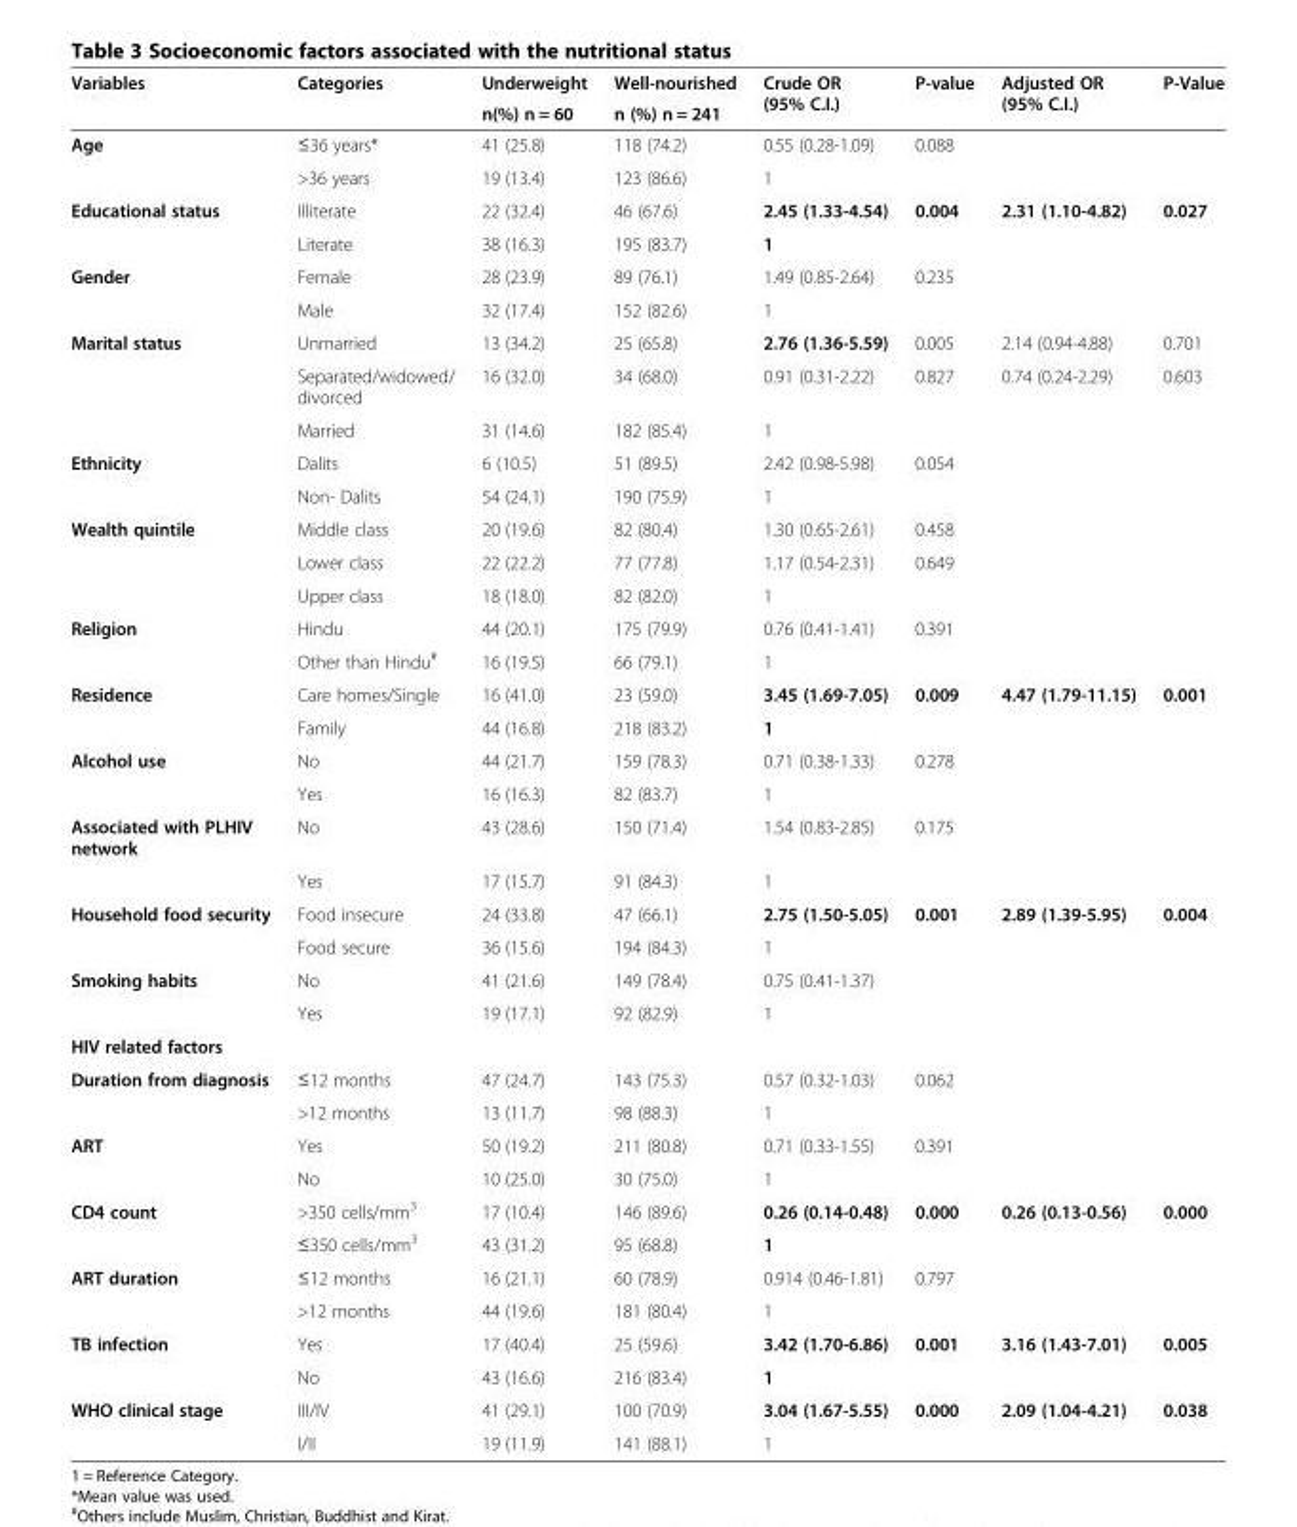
<table><thead><tr><td rowspan="2">Variables</td><td rowspan="2">Categories</td><td rowspan="2">Underweight n(%) n = 60</td><td rowspan="2">Well-nourished n (%) n = 241</td><td rowspan="2">Crude OR (95% C.I.)</td><td rowspan="2">P-value</td><td rowspan="2">Adjusted OR (95% C.I.)</td><td rowspan="2">P-Value</td></tr><tr></tr></thead><tbody><tr><td rowspan="2">Age</td><td>≤36 years*</td><td>41 (25.8)</td><td>118 (74.2)</td><td>0.55 (0.28-1.09)</td><td rowspan="2">0.088</td><td></td><td></td></tr><tr><td>&gt;36 years</td><td>19 (13.4)</td><td>123 (86.6)</td><td>1</td><td></td><td></td></tr><tr><td rowspan="2">Educational status</td><td>Illiterate</td><td>22 (32.4)</td><td>46 (67.6)</td><td>2.45 (1.33-4.54)</td><td rowspan="2">0.004</td><td>2.31 (1.10-4.82)</td><td rowspan="2">0.027</td></tr><tr><td>Literate</td><td>38 (16.3)</td><td>195 (83.7)</td><td>1</td><td></td></tr><tr><td rowspan="2">Gender</td><td>Female</td><td>28 (23.9)</td><td>89 (76.1)</td><td>1.49 (0.85-2.64)</td><td rowspan="2">0.235</td><td></td><td></td></tr><tr><td>Male</td><td>32 (17.4)</td><td>152 (82.6)</td><td>1</td><td></td><td></td></tr><tr><td rowspan="3">Marital status</td><td>Unmarried</td><td>13 (34.2)</td><td>25 (65.8)</td><td>2.76 (1.36-5.59)</td><td>0.005</td><td>2.14 (0.94-4.88)</td><td>0.701</td></tr><tr><td>Separated/widowed/ divorced</td><td>16 (32.0)</td><td>34 (68.0)</td><td>0.91 (0.31-2.22)</td><td>0.827</td><td>0.74 (0.24-2.29)</td><td>0.603</td></tr><tr><td>Married</td><td>31 (14.6)</td><td>182 (85.4)</td><td>1</td><td></td><td></td><td></td></tr><tr><td rowspan="2">Ethnicity</td><td>Dalits</td><td>6 (10.5)</td><td>51 (89.5)</td><td>2.42 (0.98-5.98)</td><td rowspan="2">0.054</td><td></td><td></td></tr><tr><td>Non- Dalits</td><td>54 (24.1)</td><td>190 (75.9)</td><td>1</td><td></td><td></td></tr><tr><td rowspan="3">Wealth quintile</td><td>Middle class</td><td>20 (19.6)</td><td>82 (80.4)</td><td>1.30 (0.65-2.61)</td><td>0.458</td><td></td><td></td></tr><tr><td>Lower class</td><td>22 (22.2)</td><td>77 (77.8)</td><td>1.17 (0.54-2.31)</td><td>0.649</td><td></td><td></td></tr><tr><td>Upper class</td><td>18 (18.0)</td><td>82 (82.0)</td><td>1</td><td></td><td></td><td></td></tr><tr><td rowspan="2">Religion</td><td>Hindu</td><td>44 (20.1)</td><td>175 (79.9)</td><td>0.76 (0.41-1.41)</td><td rowspan="2">0.391</td><td></td><td></td></tr><tr><td>Other than Hindu<sup>#</sup></td><td>16 (19.5)</td><td>66 (79.1)</td><td>1</td><td></td><td></td></tr><tr><td rowspan="2">Residence</td><td>Care homes/Single</td><td>16 (41.0)</td><td>23 (59.0)</td><td>3.45 (1.69-7.05)</td><td rowspan="2">0.009</td><td>4.47 (1.79-11.15)</td><td>0.001</td></tr><tr><td>Family</td><td>44 (16.8)</td><td>218 (83.2)</td><td>1</td><td></td><td></td></tr><tr><td rowspan="2">Alcohol use</td><td>No</td><td>44 (21.7)</td><td>159 (78.3)</td><td>0.71 (0.38-1.33)</td><td rowspan="2">0.278</td><td></td><td></td></tr><tr><td>Yes</td><td>16 (16.3)</td><td>82 (83.7)</td><td>1</td><td></td><td></td></tr><tr><td rowspan="2">Associated with PLHIV network</td><td>No</td><td>43 (28.6)</td><td>150 (71.4)</td><td>1.54 (0.83-2.85)</td><td>0.175</td><td></td><td></td></tr><tr><td>Yes</td><td>17 (15.7)</td><td>91 (84.3)</td><td>1</td><td></td><td></td><td></td></tr><tr><td rowspan="2">Household food security</td><td>Food insecure</td><td>24 (33.8)</td><td>47 (66.1)</td><td>2.75 (1.50-5.05)</td><td>0.001</td><td>2.89 (1.39-5.95)</td><td>0.004</td></tr><tr><td>Food secure</td><td>36 (15.6)</td><td>194 (84.3)</td><td>1</td><td></td><td></td><td></td></tr><tr><td rowspan="2">Smoking habits</td><td>No</td><td>41 (21.6)</td><td>149 (78.4)</td><td>0.75 (0.41-1.37)</td><td rowspan="2"></td><td></td><td></td></tr><tr><td>Yes</td><td>19 (17.1)</td><td>92 (82.9)</td><td>1</td><td></td><td></td></tr><tr><td colspan="8">HIV related factors</td></tr><tr><td rowspan="2">Duration from diagnosis</td><td>≤12 months</td><td>47 (24.7)</td><td>143 (75.3)</td><td>0.57 (0.32-1.03)</td><td>0.062</td><td></td><td></td></tr><tr><td>&gt;12 months</td><td>13 (11.7)</td><td>98 (88.3)</td><td>1</td><td></td><td></td><td></td></tr><tr><td rowspan="2">ART</td><td>Yes</td><td>50 (19.2)</td><td>211 (80.8)</td><td>0.71 (0.33-1.55)</td><td>0.391</td><td></td><td></td></tr><tr><td>No</td><td>10 (25.0)</td><td>30 (75.0)</td><td>1</td><td></td><td></td><td></td></tr><tr><td rowspan="2">CD4 count</td><td>&gt;350 cells/mm<sup>3</sup></td><td>17 (10.4)</td><td>146 (89.6)</td><td>0.26 (0.14-0.48)</td><td>0.000</td><td>0.26 (0.13-0.56)</td><td>0.000</td></tr><tr><td>≤350 cells/mm<sup>3</sup></td><td>43 (31.2)</td><td>95 (68.8)</td><td>1</td><td></td><td></td><td></td></tr><tr><td rowspan="2">ART duration</td><td>≤12 months</td><td>16 (21.1)</td><td>60 (78.9)</td><td>0.914 (0.46-1.81)</td><td>0.797</td><td></td><td></td></tr><tr><td>&gt;12 months</td><td>44 (19.6)</td><td>181 (80.4)</td><td>1</td><td></td><td></td><td></td></tr><tr><td rowspan="2">TB infection</td><td>Yes</td><td>17 (40.4)</td><td>25 (59.6)</td><td>3.42 (1.70-6.86)</td><td>0.001</td><td>3.16 (1.43-7.01)</td><td>0.005</td></tr><tr><td>No</td><td>43 (16.6)</td><td>216 (83.4)</td><td>1</td><td></td><td></td><td></td></tr><tr><td rowspan="2">WHO clinical stage</td><td>III/IV</td><td>41 (29.1)</td><td>100 (70.9)</td><td>3.04 (1.67-5.55)</td><td>0.000</td><td>2.09 (1.04-4.21)</td><td>0.038</td></tr><tr><td>I/II</td><td>19 (11.9)</td><td>141 (88.1)</td><td>1</td><td></td><td></td><td></td></tr></tbody></table>